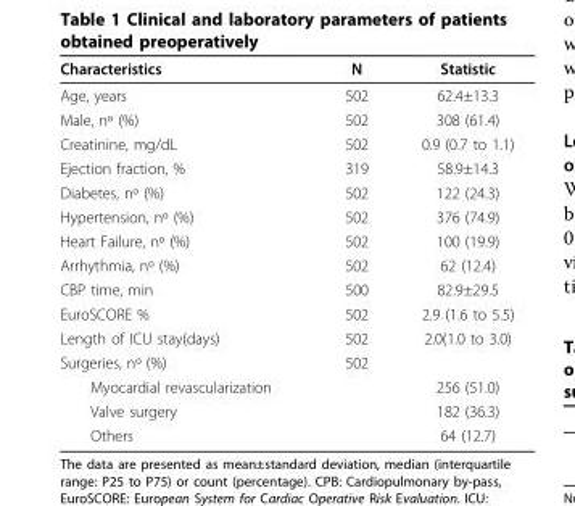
<table><thead><tr><td>Characteristics</td><td>N</td><td>Statistic</td></tr></thead><tbody><tr><td>Age, years</td><td>502</td><td>62.4±13.3</td></tr><tr><td>Male, nº (%)</td><td>502</td><td>308 (61.4)</td></tr><tr><td>Creatinine, mg/dL</td><td>502</td><td>0.9 (0.7 to 1.1)</td></tr><tr><td>Ejection fraction, %</td><td>319</td><td>58.9±14.3</td></tr><tr><td>Diabetes, nº (%)</td><td>502</td><td>122 (24.3)</td></tr><tr><td>Hypertension, nº (%)</td><td>502</td><td>376 (74.9)</td></tr><tr><td>Heart Failure, nº (%)</td><td>502</td><td>100 (19.9)</td></tr><tr><td>Arrhythmia, nº (%)</td><td>502</td><td>62 (12.4)</td></tr><tr><td>CBP time, min</td><td>500</td><td>82.9±29.5</td></tr><tr><td>EuroSCORE %</td><td>502</td><td>2.9 (1.6 to 5.5)</td></tr><tr><td>Length of ICU stay(days)</td><td>502</td><td>2.0(1.0 to 3.0)</td></tr><tr><td>Surgeries, nº (%)</td><td>502</td><td></td></tr><tr><td>Myocardial revascularization</td><td></td><td>256 (51.0)</td></tr><tr><td>Valve surgery</td><td></td><td>182 (36.3)</td></tr><tr><td>Others</td><td></td><td>64 (12.7)</td></tr></tbody></table>